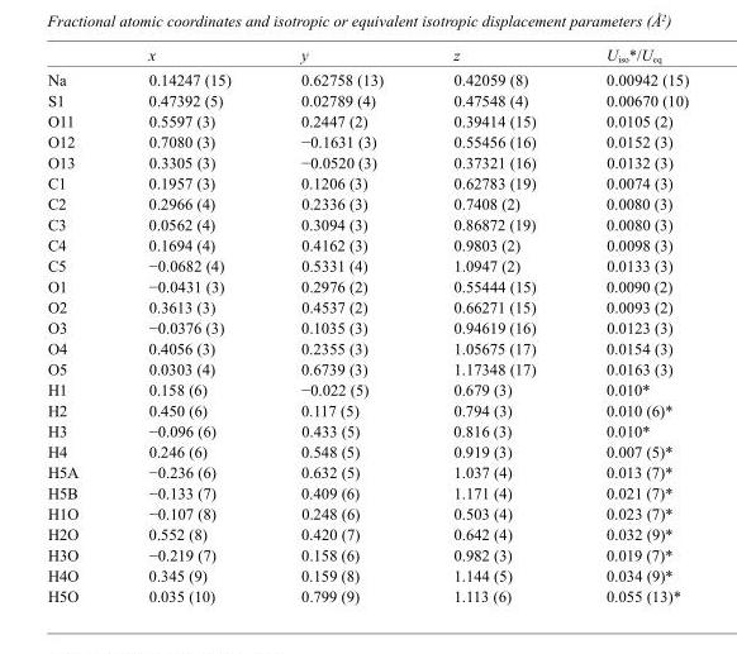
<table><thead><tr><td></td><td>x</td><td>y</td><td>z</td><td>U<sub>iso</sub>*/U<sub>eq</sub></td></tr></thead><tbody><tr><td>Na</td><td>0.14247 (15)</td><td>0.62758 (13)</td><td>0.42059 (8)</td><td>0.00942 (15)</td></tr><tr><td>S1</td><td>0.47392 (5)</td><td>0.02789 (4)</td><td>0.47548 (4)</td><td>0.00670 (10)</td></tr><tr><td>O11</td><td>0.5597 (3)</td><td>0.2447 (2)</td><td>0.39414 (15)</td><td>0.0105 (2)</td></tr><tr><td>O12</td><td>0.7080 (3)</td><td>−0.1631 (3)</td><td>0.55456 (16)</td><td>0.0152 (3)</td></tr><tr><td>O13</td><td>0.3305 (3)</td><td>−0.0520 (3)</td><td>0.37321 (16)</td><td>0.0132 (3)</td></tr><tr><td>C1</td><td>0.1957 (3)</td><td>0.1206 (3)</td><td>0.62783 (19)</td><td>0.0074 (3)</td></tr><tr><td>C2</td><td>0.2966 (4)</td><td>0.2336 (3)</td><td>0.7408 (2)</td><td>0.0080 (3)</td></tr><tr><td>C3</td><td>0.0562 (4)</td><td>0.3094 (3)</td><td>0.86872 (19)</td><td>0.0080 (3)</td></tr><tr><td>C4</td><td>0.1694 (4)</td><td>0.4162 (3)</td><td>0.9803 (2)</td><td>0.0098 (3)</td></tr><tr><td>C5</td><td>−0.0682 (4)</td><td>0.5331 (4)</td><td>1.0947 (2)</td><td>0.0133 (3)</td></tr><tr><td>O1</td><td>−0.0431 (3)</td><td>0.2976 (2)</td><td>0.55444 (15)</td><td>0.0090 (2)</td></tr><tr><td>O2</td><td>0.3613 (3)</td><td>0.4537 (2)</td><td>0.66271 (15)</td><td>0.0093 (2)</td></tr><tr><td>O3</td><td>−0.0376 (3)</td><td>0.1035 (3)</td><td>0.94619 (16)</td><td>0.0123 (3)</td></tr><tr><td>O4</td><td>0.4056 (3)</td><td>0.2355 (3)</td><td>1.05675 (17)</td><td>0.0154 (3)</td></tr><tr><td>O5</td><td>0.0303 (4)</td><td>0.6739 (3)</td><td>1.17348 (17)</td><td>0.0163 (3)</td></tr><tr><td>H1</td><td>0.158 (6)</td><td>−0.022 (5)</td><td>0.679 (3)</td><td>0.010*</td></tr><tr><td>H2</td><td>0.450 (6)</td><td>0.117 (5)</td><td>0.794 (3)</td><td>0.010 (6)*</td></tr><tr><td>H3</td><td>−0.096 (6)</td><td>0.433 (5)</td><td>0.816 (3)</td><td>0.010*</td></tr><tr><td>H4</td><td>0.246 (6)</td><td>0.548 (5)</td><td>0.919 (3)</td><td>0.007 (5)*</td></tr><tr><td>H5A</td><td>−0.236 (6)</td><td>0.632 (5)</td><td>1.037 (4)</td><td>0.013 (7)*</td></tr><tr><td>H5B</td><td>−0.133 (7)</td><td>0.409 (6)</td><td>1.171 (4)</td><td>0.021 (7)*</td></tr><tr><td>H1O</td><td>−0.107 (8)</td><td>0.248 (6)</td><td>0.503 (4)</td><td>0.023 (7)*</td></tr><tr><td>H2O</td><td>0.552 (8)</td><td>0.420 (7)</td><td>0.642 (4)</td><td>0.032 (9)*</td></tr><tr><td>H3O</td><td>−0.219 (7)</td><td>0.158 (6)</td><td>0.982 (3)</td><td>0.019 (7)*</td></tr><tr><td>H4O</td><td>0.345 (9)</td><td>0.159 (8)</td><td>1.144 (5)</td><td>0.034 (9)*</td></tr><tr><td>H5O</td><td>0.035 (10)</td><td>0.799 (9)</td><td>1.113 (6)</td><td>0.055 (13)*</td></tr></tbody></table>